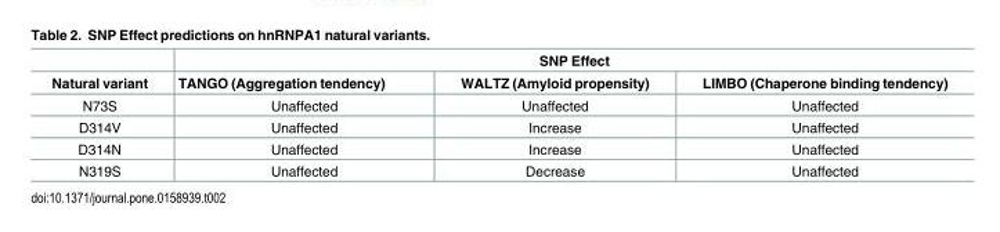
<table><thead><tr><td rowspan="2">Natural variant</td><td colspan="3">SNP Effect</td></tr><tr><td>TANGO (Aggregation tendency)</td><td>WALTZ (Amyloid propensity)</td><td>LIMBO (Chaperone binding tendency)</td></tr></thead><tbody><tr><td>N73S</td><td>Unaffected</td><td>Unaffected</td><td>Unaffected</td></tr><tr><td>D314V</td><td>Unaffected</td><td>Increase</td><td>Unaffected</td></tr><tr><td>D314N</td><td>Unaffected</td><td>Increase</td><td>Unaffected</td></tr><tr><td>N319S</td><td>Unaffected</td><td>Decrease</td><td>Unaffected</td></tr></tbody></table>